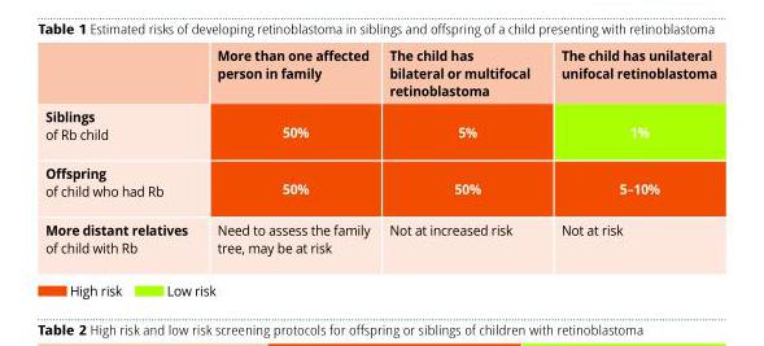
<table><thead><tr><td></td><td>More than one affected person in family</td><td>The child has bilateral or multifocal retinoblastoma</td><td>The child has unilateral unifocal retinoblastoma</td></tr></thead><tbody><tr><td>Siblings of Rb child</td><td>50%</td><td>5%</td><td>1%</td></tr><tr><td>Offspring of child who had Rb</td><td>50%</td><td>50%</td><td>5–10%</td></tr><tr><td>More distant relatives of child with Rb</td><td>Need to assess the family tree, may be at risk</td><td>Not at increased risk</td><td>Not at risk</td></tr><tr><td colspan="4">High risk Low risk</td></tr></tbody></table>